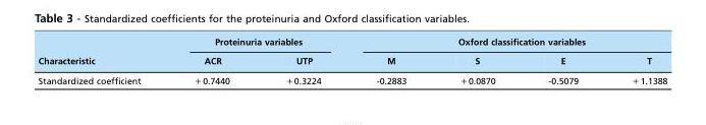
<table><thead><tr><td rowspan="2">Characteristic</td><td colspan="2">Proteinuria variables</td><td colspan="4">Oxford classification variables</td></tr><tr><td>ACR</td><td>UTP</td><td>M</td><td>S</td><td>E</td><td>T</td></tr></thead><tbody><tr><td>Standardized coefficient</td><td>+0.7440</td><td>+0.3224</td><td>-0.2883</td><td>+0.0870</td><td>-0.5079</td><td>+1.1388</td></tr></tbody></table>